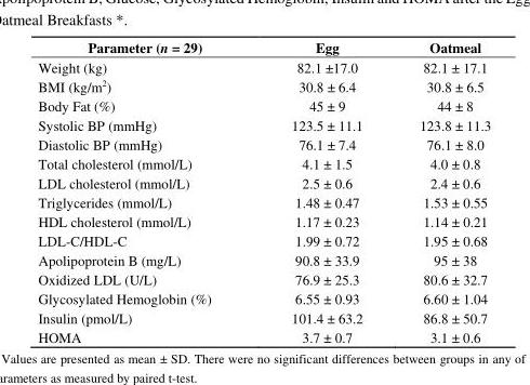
<table><thead><tr><td>Parameter (n = 29)</td><td>Egg</td><td>Oatmeal</td></tr></thead><tbody><tr><td>Weight (kg)</td><td>82.1 ±17.0</td><td>82.1 ± 17.1</td></tr><tr><td>BMI (kg/m<sup>2</sup>)</td><td>30.8 ± 6.4</td><td>30.8 ± 6.5</td></tr><tr><td>Body Fat (%)</td><td>45 ± 9</td><td>44 ± 8</td></tr><tr><td>Systolic BP (mmHg)</td><td>123.5 ± 11.1</td><td>123.8 ± 11.3</td></tr><tr><td>Diastolic BP (mmHg)</td><td>76.1 ± 7.4</td><td>76.1 ± 8.0</td></tr><tr><td>Total cholesterol (mmol/L)</td><td>4.1 ± 1.5</td><td>4.0 ± 0.8</td></tr><tr><td>LDL cholesterol (mmol/L)</td><td>2.5 ± 0.6</td><td>2.4 ± 0.6</td></tr><tr><td>Triglycerides (mmol/L)</td><td>1.48 ± 0.47</td><td>1.53 ± 0.55</td></tr><tr><td>HDL cholesterol (mmol/L)</td><td>1.17 ± 0.23</td><td>1.14 ± 0.21</td></tr><tr><td>LDL-C/HDL-C</td><td>1.99 ± 0.72</td><td>1.95 ± 0.68</td></tr><tr><td>Apolipoprotein B (mg/L)</td><td>90.8 ± 33.9</td><td>95 ± 38</td></tr><tr><td>Oxidized LDL (U/L)</td><td>76.9 ± 25.3</td><td>80.6 ± 32.7</td></tr><tr><td>Glycosylated Hemoglobin (%)</td><td>6.55 ± 0.93</td><td>6.60 ± 1.04</td></tr><tr><td>Insulin (pmol/L)</td><td>101.4 ± 63.2</td><td>86.8 ± 50.7</td></tr><tr><td>HOMA</td><td>3.7 ± 0.7</td><td>3.1 ± 0.6</td></tr></tbody></table>